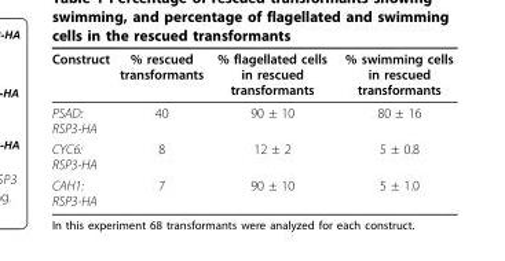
<table><thead><tr><td>Construct</td><td>% rescued transformants</td><td>% flagellated cells in rescued transformants</td><td>% swimming cells in rescued transformants</td></tr></thead><tbody><tr><td>PSAD: RSP3-HA</td><td>40</td><td>90 ± 10</td><td>80 ± 16</td></tr><tr><td>CYC6: RSP3-HA</td><td>8</td><td>12 ± 2</td><td>5 ± 0.8</td></tr><tr><td>CAH1: RSP3-HA</td><td>7</td><td>90 ± 10</td><td>5 ± 1.0</td></tr></tbody></table>